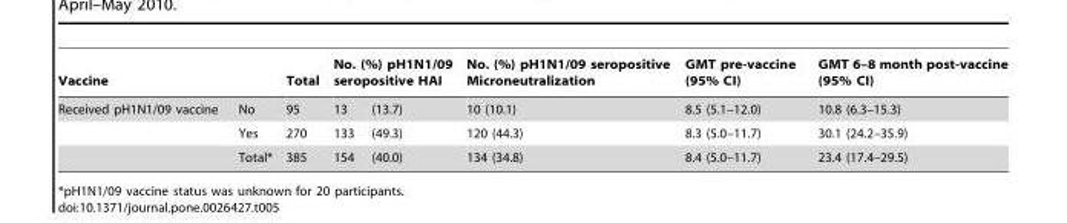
<table><thead><tr><td colspan="2">Vaccine</td><td rowspan="2">Total 95</td><td colspan="2">No. (%) pH1N1/09 seropositive HAI</td><td rowspan="2">No. (%) pH1N1/09 seropositive Microneutralization 10 (10.1)</td><td rowspan="2">GMT pre-vaccine (95% CI) 8.5 (5.1–12.0)</td><td rowspan="2">GMT 6–8 month post-vaccine (95% CI) 10.8 (6.3–15.3)</td></tr><tr><td>Received pH1N1/09 vaccine</td><td>No</td><td>13</td><td>(13.7)</td></tr></thead><tbody><tr><td></td><td>Yes</td><td>270</td><td>133</td><td>(49.3)</td><td>120 (44.3)</td><td>8.3 (5.0–11.7)</td><td>30.1 (24.2–35.9)</td></tr><tr><td></td><td>Total*</td><td>385</td><td>154</td><td>(40.0)</td><td>134 (34.8)</td><td>8.4 (5.0–11.7)</td><td>23.4 (17.4–29.5)</td></tr></tbody></table>